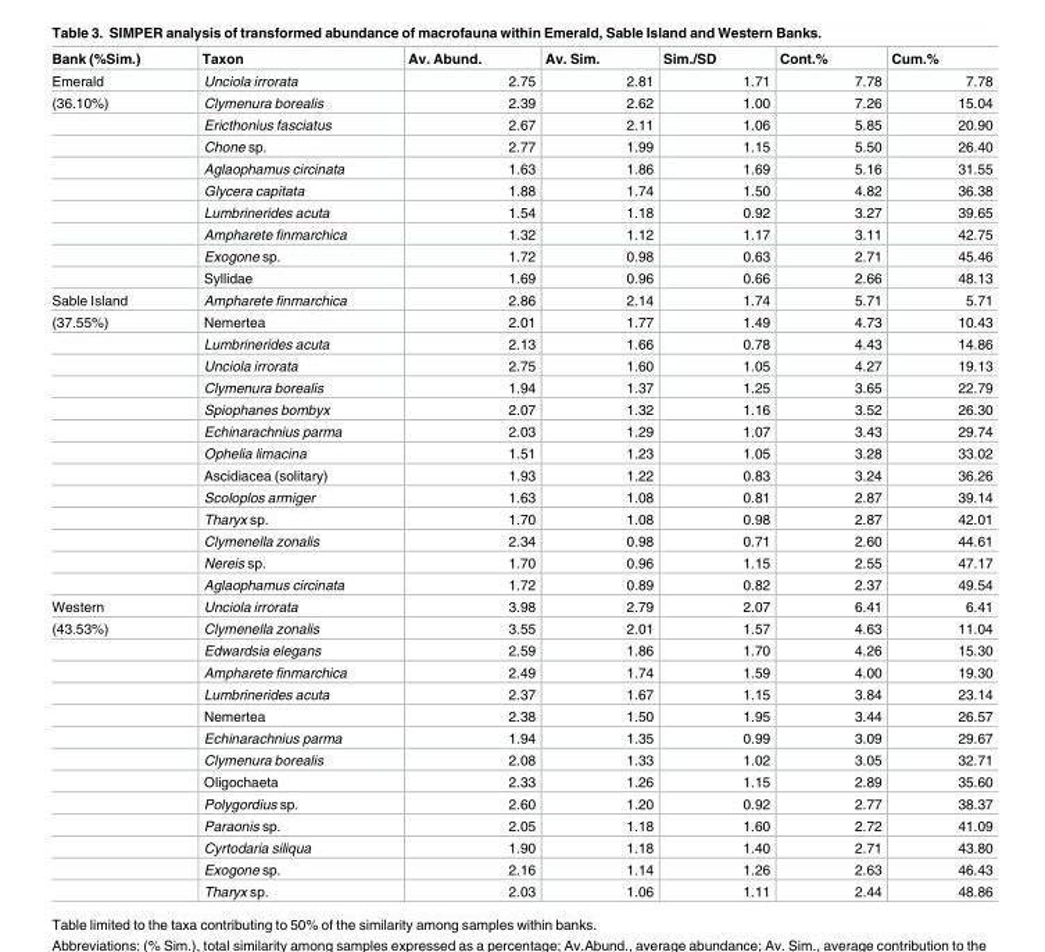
<table><thead><tr><td>Bank (%Sim.)</td><td>Taxon</td><td>Av. Abund.</td><td>Av. Sim.</td><td>Sim./SD</td><td>Cont.%</td><td>Cum.%</td></tr></thead><tbody><tr><td>Emerald</td><td>Unciola irrorata</td><td>2.75</td><td>2.81</td><td>1.71</td><td>7.78</td><td>7.78</td></tr><tr><td rowspan="9">(36.10%)</td><td>Clymenura borealis</td><td>2.39</td><td>2.62</td><td>1.00</td><td>7.26</td><td>15.04</td></tr><tr><td>Ericthonius fasciatus</td><td>2.67</td><td>2.11</td><td>1.06</td><td>5.85</td><td>20.90</td></tr><tr><td>Chone sp.</td><td>2.77</td><td>1.99</td><td>1.15</td><td>5.50</td><td>26.40</td></tr><tr><td>Aglaophamus circinata</td><td>1.63</td><td>1.86</td><td>1.69</td><td>5.16</td><td>31.55</td></tr><tr><td>Glycera capitata</td><td>1.88</td><td>1.74</td><td>1.50</td><td>4.82</td><td>36.38</td></tr><tr><td>Lumbrinerides acuta</td><td>1.54</td><td>1.18</td><td>0.92</td><td>3.27</td><td>39.65</td></tr><tr><td>Ampharete finmarchica</td><td>1.32</td><td>1.12</td><td>1.17</td><td>3.11</td><td>42.75</td></tr><tr><td>Exogone sp.</td><td>1.72</td><td>0.98</td><td>0.63</td><td>2.71</td><td>45.46</td></tr><tr><td>Syllidae</td><td>1.69</td><td>0.96</td><td>0.66</td><td>2.66</td><td>48.13</td></tr><tr><td>Sable Island</td><td>Ampharete finmarchica</td><td>2.86</td><td>2.14</td><td>1.74</td><td>5.71</td><td>5.71</td></tr><tr><td rowspan="13">(37.55%)</td><td>Nemertea</td><td>2.01</td><td>1.77</td><td>1.49</td><td>4.73</td><td>10.43</td></tr><tr><td>Lumbrinerides acuta</td><td>2.13</td><td>1.66</td><td>0.78</td><td>4.43</td><td>14.86</td></tr><tr><td>Unciola irrorata</td><td>2.75</td><td>1.60</td><td>1.05</td><td>4.27</td><td>19.13</td></tr><tr><td>Clymenura borealis</td><td>1.94</td><td>1.37</td><td>1.25</td><td>3.65</td><td>22.79</td></tr><tr><td>Spiophanes bombyx</td><td>2.07</td><td>1.32</td><td>1.16</td><td>3.52</td><td>26.30</td></tr><tr><td>Echinarachnius parma</td><td>2.03</td><td>1.29</td><td>1.07</td><td>3.43</td><td>29.74</td></tr><tr><td>Ophelia limacina</td><td>1.51</td><td>1.23</td><td>1.05</td><td>3.28</td><td>33.02</td></tr><tr><td>Ascidiacea (solitary)</td><td>1.93</td><td>1.22</td><td>0.83</td><td>3.24</td><td>36.26</td></tr><tr><td>Scoloplos armiger</td><td>1.63</td><td>1.08</td><td>0.81</td><td>2.87</td><td>39.14</td></tr><tr><td>Tharyx sp.</td><td>1.70</td><td>1.08</td><td>0.98</td><td>2.87</td><td>42.01</td></tr><tr><td>Clymenella zonalis</td><td>2.34</td><td>0.98</td><td>0.71</td><td>2.60</td><td>44.61</td></tr><tr><td>Nereis sp.</td><td>1.70</td><td>0.96</td><td>1.15</td><td>2.55</td><td>47.17</td></tr><tr><td>Aglaophamus circinata</td><td>1.72</td><td>0.89</td><td>0.82</td><td>2.37</td><td>49.54</td></tr><tr><td>Western</td><td>Unciola irrorata</td><td>3.98</td><td>2.79</td><td>2.07</td><td>6.41</td><td>6.41</td></tr><tr><td rowspan="13">(43.53%)</td><td>Clymenella zonalis</td><td>3.55</td><td>2.01</td><td>1.57</td><td>4.63</td><td>11.04</td></tr><tr><td>Edwardsia elegans</td><td>2.59</td><td>1.86</td><td>1.70</td><td>4.26</td><td>15.30</td></tr><tr><td>Ampharete finmarchica</td><td>2.49</td><td>1.74</td><td>1.59</td><td>4.00</td><td>19.30</td></tr><tr><td>Lumbrinerides acuta</td><td>2.37</td><td>1.67</td><td>1.15</td><td>3.84</td><td>23.14</td></tr><tr><td>Nemertea</td><td>2.38</td><td>1.50</td><td>1.95</td><td>3.44</td><td>26.57</td></tr><tr><td>Echinarachnius parma</td><td>1.94</td><td>1.35</td><td>0.99</td><td>3.09</td><td>29.67</td></tr><tr><td>Clymenura borealis</td><td>2.08</td><td>1.33</td><td>1.02</td><td>3.05</td><td>32.71</td></tr><tr><td>Oligochaeta</td><td>2.33</td><td>1.26</td><td>1.15</td><td>2.89</td><td>35.60</td></tr><tr><td>Polygordius sp.</td><td>2.60</td><td>1.20</td><td>0.92</td><td>2.77</td><td>38.37</td></tr><tr><td>Paraonis sp.</td><td>2.05</td><td>1.18</td><td>1.60</td><td>2.72</td><td>41.09</td></tr><tr><td>Cyrtodaria siliqua</td><td>1.90</td><td>1.18</td><td>1.40</td><td>2.71</td><td>43.80</td></tr><tr><td>Exogone sp.</td><td>2.16</td><td>1.14</td><td>1.26</td><td>2.63</td><td>46.43</td></tr><tr><td>Tharyx sp.</td><td>2.03</td><td>1.06</td><td>1.11</td><td>2.44</td><td>48.86</td></tr></tbody></table>